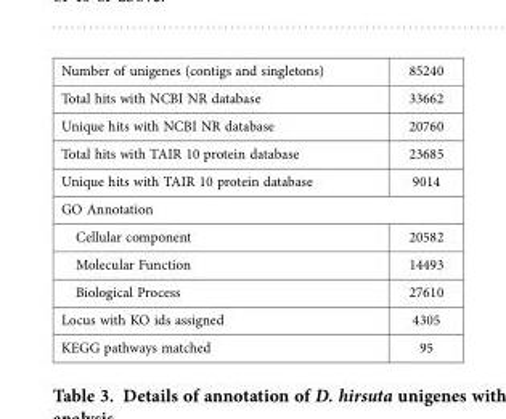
<table><tbody><tr><td>Number of unigenes (contigs and singletons)</td><td>85240</td></tr><tr><td>Total hits with NCBI NR database</td><td>33662</td></tr><tr><td>Unique hits with NCBI NR database</td><td>20760</td></tr><tr><td>Total hits with TAIR 10 protein database</td><td>23685</td></tr><tr><td>Unique hits with TAIR 10 protein database</td><td>9014</td></tr><tr><td colspan="2">GO Annotation</td></tr><tr><td>Cellular component</td><td>20582</td></tr><tr><td>Molecular Function</td><td>14493</td></tr><tr><td>Biological Process</td><td>27610</td></tr><tr><td>Locus with KO ids assigned</td><td>4305</td></tr><tr><td>KEGG pathways matched</td><td>95</td></tr></tbody></table>